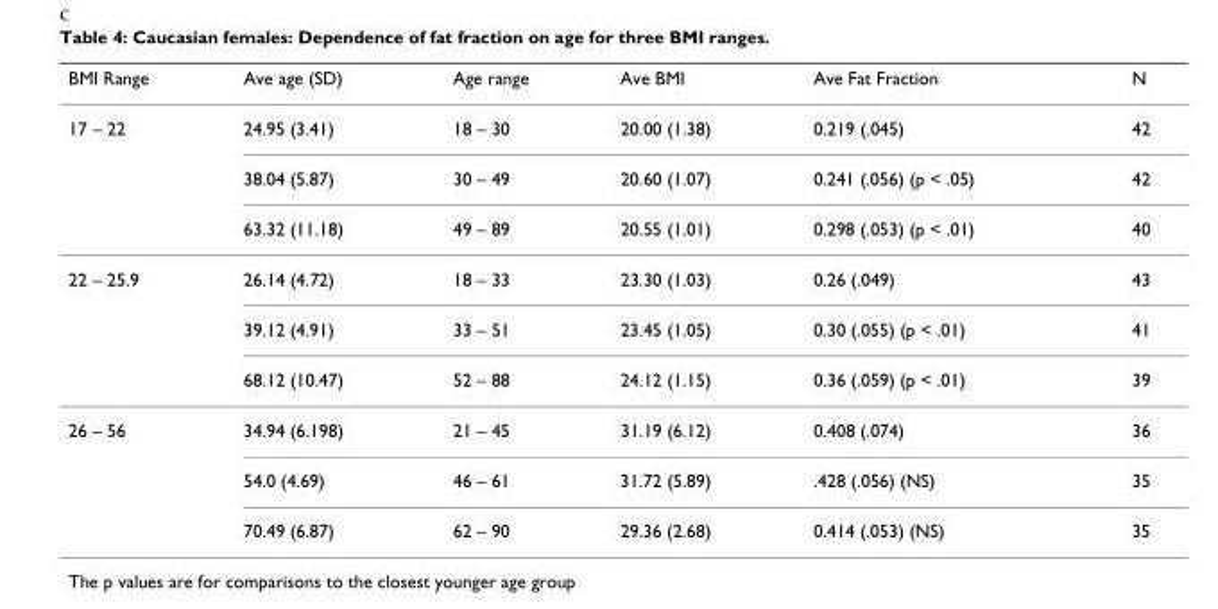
<table><thead><tr><td>BMI Range</td><td>Ave age (SD)</td><td>Age range</td><td>Ave BMI</td><td>Ave Fat Fraction</td><td>N</td></tr></thead><tbody><tr><td rowspan="3">17 – 22</td><td>24.95 (3.41)</td><td>18 – 30</td><td>20.00 (1.38)</td><td>0.219 (.045)</td><td>42</td></tr><tr><td>38.04 (5.87)</td><td>30 – 49</td><td>20.60 (1.07)</td><td>0.241 (.056) (p &lt; .05)</td><td>42</td></tr><tr><td>63.32 (11.18)</td><td>49 – 89</td><td>20.55 (1.01)</td><td>0.298 (.053) (p &lt; .01)</td><td>40</td></tr><tr><td rowspan="3">22 – 25.9</td><td>26.14 (4.72)</td><td>18 – 33</td><td>23.30 (1.03)</td><td>0.26 (.049)</td><td>43</td></tr><tr><td>39.12 (4.91)</td><td>33 – 51</td><td>23.45 (1.05)</td><td>0.30 (.055) (p &lt; .01)</td><td>41</td></tr><tr><td>68.12 (10.47)</td><td>52 – 88</td><td>24.12 (1.15)</td><td>0.36 (.059) (p &lt; .01)</td><td>39</td></tr><tr><td rowspan="3">26 – 56</td><td>34.94 (6.198)</td><td>21 – 45</td><td>31.19 (6.12)</td><td>0.408 (.074)</td><td>36</td></tr><tr><td>54.0 (4.69)</td><td>46 – 61</td><td>31.72 (5.89)</td><td>.428 (.056) (NS)</td><td>35</td></tr><tr><td>70.49 (6.87)</td><td>62 – 90</td><td>29.36 (2.68)</td><td>0.414 (.053) (NS)</td><td>35</td></tr></tbody></table>